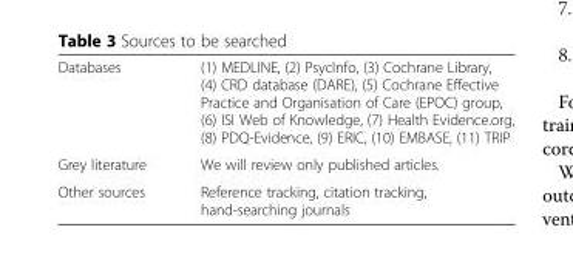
<table><tbody><tr><td>Databases</td><td>(1) MEDLINE, (2) PsycInfo, (3) Cochrane Library, (4) CRD database (DARE), (5) Cochrane Effective Practice and Organisation of Care (EPOC) group, (6) ISI Web of Knowledge, (7) Health Evidence.org, (8) PDQ-Evidence, (9) ERIC, (10) EMBASE, (11) TRIP</td></tr><tr><td>Grey literature</td><td>We will review only published articles.</td></tr><tr><td>Other sources</td><td>Reference tracking, citation tracking, hand-searching journals</td></tr></tbody></table>